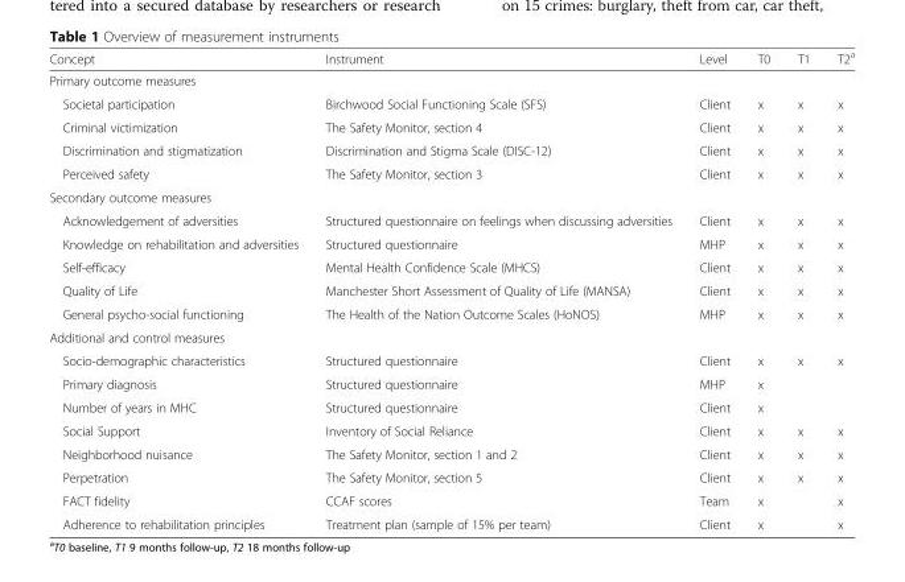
<table><thead><tr><td>Concept</td><td>Instrument</td><td>Level</td><td>T0</td><td>T1</td><td>T2<sup>a</sup></td></tr></thead><tbody><tr><td colspan="6">Primary outcome measures</td></tr><tr><td>Societal participation</td><td>Birchwood Social Functioning Scale (SFS)</td><td>Client</td><td>x</td><td>x</td><td>x</td></tr><tr><td>Criminal victimization</td><td>The Safety Monitor, section 4</td><td>Client</td><td>x</td><td>x</td><td>x</td></tr><tr><td>Discrimination and stigmatization</td><td>Discrimination and Stigma Scale (DISC-12)</td><td>Client</td><td>x</td><td>x</td><td>x</td></tr><tr><td>Perceived safety</td><td>The Safety Monitor, section 3</td><td>Client</td><td>x</td><td>x</td><td>x</td></tr><tr><td colspan="6">Secondary outcome measures</td></tr><tr><td>Acknowledgement of adversities</td><td>Structured questionnaire on feelings when discussing adversities</td><td>Client</td><td>x</td><td>x</td><td>x</td></tr><tr><td>Knowledge on rehabilitation and adversities</td><td>Structured questionnaire</td><td>MHP</td><td>x</td><td>x</td><td>x</td></tr><tr><td>Self-efficacy</td><td>Mental Health Confidence Scale (MHCS)</td><td>Client</td><td>x</td><td>x</td><td>x</td></tr><tr><td>Quality of Life</td><td>Manchester Short Assessment of Quality of Life (MANSA)</td><td>Client</td><td>x</td><td>x</td><td>x</td></tr><tr><td>General psycho-social functioning</td><td>The Health of the Nation Outcome Scales (HoNOS)</td><td>MHP</td><td>x</td><td>x</td><td>x</td></tr><tr><td colspan="6">Additional and control measures</td></tr><tr><td>Socio-demographic characteristics</td><td>Structured questionnaire</td><td>Client</td><td>x</td><td>x</td><td>x</td></tr><tr><td>Primary diagnosis</td><td>Structured questionnaire</td><td>MHP</td><td>x</td><td></td><td></td></tr><tr><td>Number of years in MHC</td><td>Structured questionnaire</td><td>Client</td><td>x</td><td></td><td></td></tr><tr><td>Social Support</td><td>Inventory of Social Reliance</td><td>Client</td><td>x</td><td>x</td><td>x</td></tr><tr><td>Neighborhood nuisance</td><td>The Safety Monitor, section 1 and 2</td><td>Client</td><td>x</td><td>x</td><td>x</td></tr><tr><td>Perpetration</td><td>The Safety Monitor, section 5</td><td>Client</td><td>x</td><td>x</td><td>x</td></tr><tr><td>FACT fidelity</td><td>CCAF scores</td><td>Team</td><td>x</td><td></td><td>x</td></tr><tr><td>Adherence to rehabilitation principles</td><td>Treatment plan (sample of 15% per team)</td><td>Client</td><td>x</td><td></td><td>x</td></tr></tbody></table>